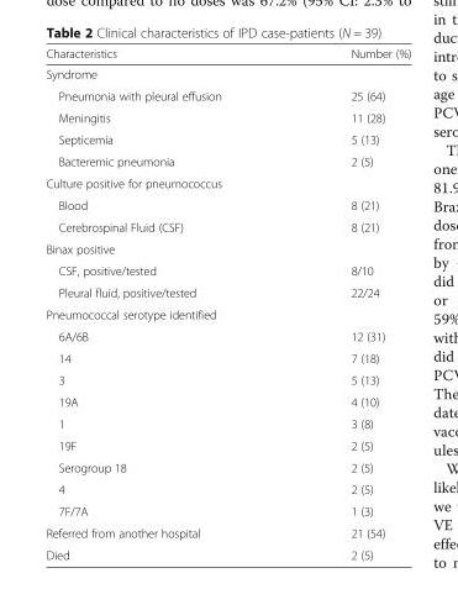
<table><thead><tr><td>Characteristics</td><td>Number (%)</td></tr></thead><tbody><tr><td colspan="2">Syndrome</td></tr><tr><td>Pneumonia with pleural effusion</td><td>25 (64)</td></tr><tr><td>Meningitis</td><td>11 (28)</td></tr><tr><td>Septicemia</td><td>5 (13)</td></tr><tr><td>Bacteremic pneumonia</td><td>2 (5)</td></tr><tr><td colspan="2">Culture positive for pneumococcus</td></tr><tr><td>Blood</td><td>8 (21)</td></tr><tr><td>Cerebrospinal Fluid (CSF)</td><td>8 (21)</td></tr><tr><td colspan="2">Binax positive</td></tr><tr><td>CSF, positive/tested</td><td>8/10</td></tr><tr><td>Pleural fluid, positive/tested</td><td>22/24</td></tr><tr><td colspan="2">Pneumococcal serotype identified</td></tr><tr><td>6A/6B</td><td>12 (31)</td></tr><tr><td>14</td><td>7 (18)</td></tr><tr><td>3</td><td>5 (13)</td></tr><tr><td>19A</td><td>4 (10)</td></tr><tr><td>1</td><td>3 (8)</td></tr><tr><td>19F</td><td>2 (5)</td></tr><tr><td>Serogroup 18</td><td>2 (5)</td></tr><tr><td>4</td><td>2 (5)</td></tr><tr><td>7F/7A</td><td>1 (3)</td></tr><tr><td>Referred from another hospital</td><td>21 (54)</td></tr><tr><td>Died</td><td>2 (5)</td></tr></tbody></table>